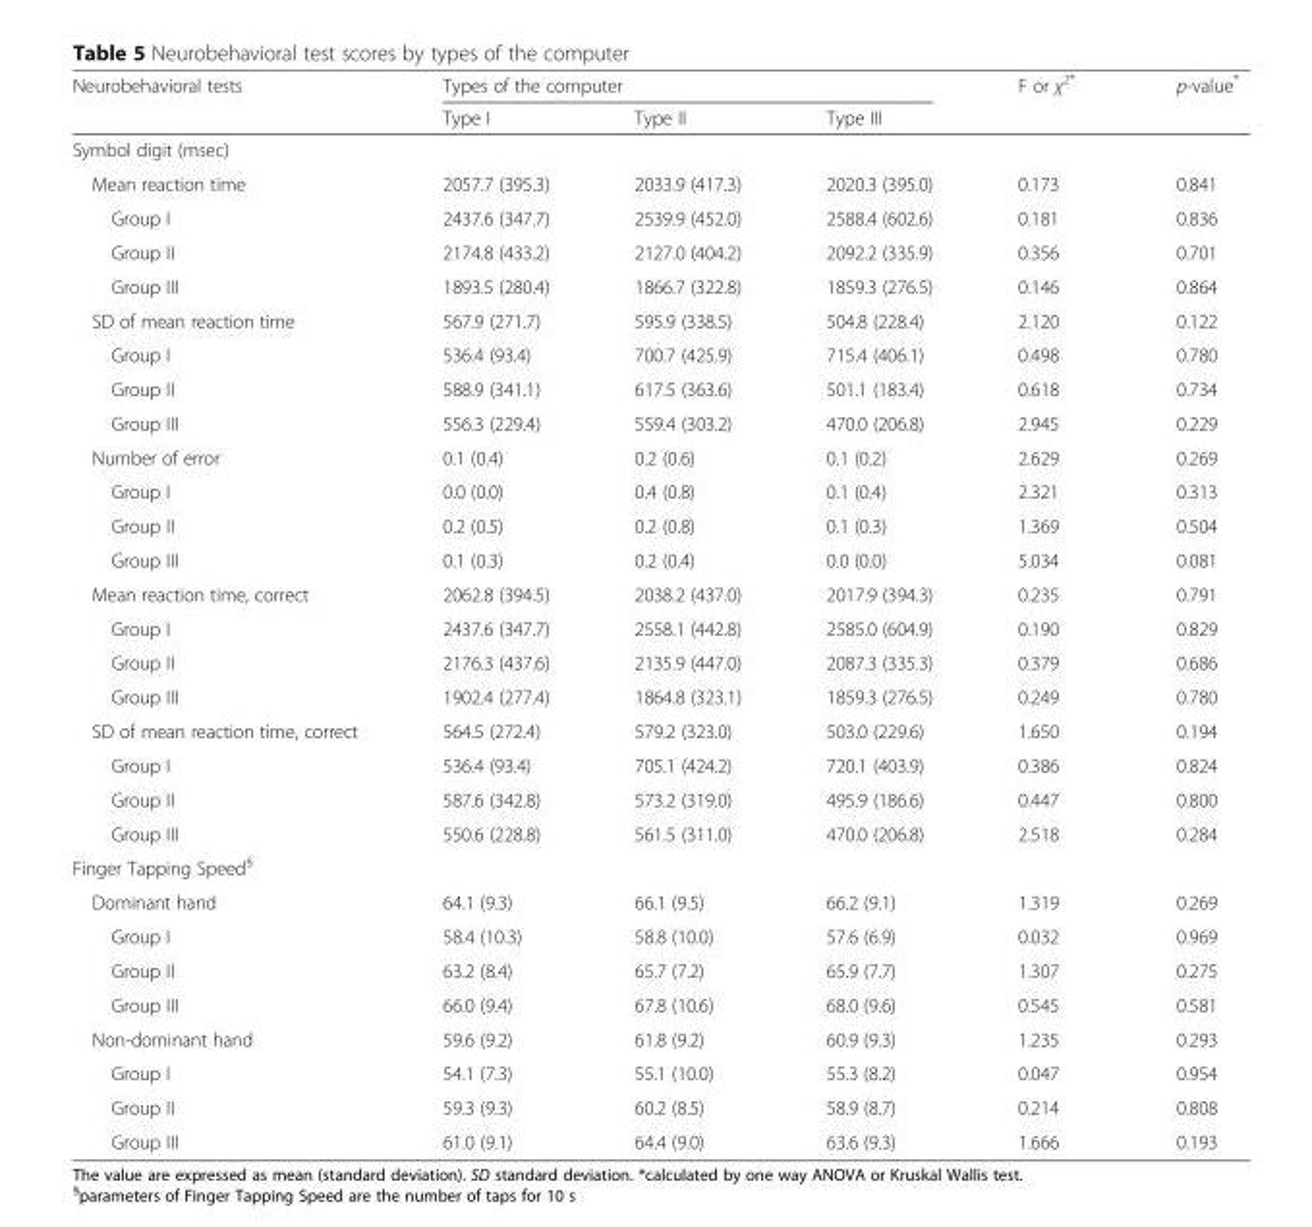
<table><thead><tr><td rowspan="2">Neurobehavioral tests</td><td colspan="3">Types of the computer</td><td rowspan="2">F or χ<sup>2*</sup></td><td rowspan="2">p-value*</td></tr><tr><td>Type I</td><td>Type II</td><td>Type III</td></tr></thead><tbody><tr><td colspan="6">Symbol digit (msec)</td></tr><tr><td>Mean reaction time</td><td>2057.7 (395.3)</td><td>2033.9 (417.3)</td><td>2020.3 (395.0)</td><td>0.173</td><td>0.841</td></tr><tr><td>Group I</td><td>2437.6 (347.7)</td><td>2539.9 (452.0)</td><td>2588.4 (602.6)</td><td>0.181</td><td>0.836</td></tr><tr><td>Group II</td><td>2174.8 (433.2)</td><td>2127.0 (404.2)</td><td>2092.2 (335.9)</td><td>0.356</td><td>0.701</td></tr><tr><td>Group III</td><td>1893.5 (280.4)</td><td>1866.7 (322.8)</td><td>1859.3 (276.5)</td><td>0.146</td><td>0.864</td></tr><tr><td>SD of mean reaction time</td><td>567.9 (271.7)</td><td>595.9 (338.5)</td><td>504.8 (228.4)</td><td>2.120</td><td>0.122</td></tr><tr><td>Group I</td><td>536.4 (93.4)</td><td>700.7 (425.9)</td><td>715.4 (406.1)</td><td>0.498</td><td>0.780</td></tr><tr><td>Group II</td><td>588.9 (341.1)</td><td>617.5 (363.6)</td><td>501.1 (183.4)</td><td>0.618</td><td>0.734</td></tr><tr><td>Group III</td><td>556.3 (229.4)</td><td>559.4 (303.2)</td><td>470.0 (206.8)</td><td>2.945</td><td>0.229</td></tr><tr><td>Number of error</td><td>0.1 (0.4)</td><td>0.2 (0.6)</td><td>0.1 (0.2)</td><td>2.629</td><td>0.269</td></tr><tr><td>Group I</td><td>0.0 (0.0)</td><td>0.4 (0.8)</td><td>0.1 (0.4)</td><td>2.321</td><td>0.313</td></tr><tr><td>Group II</td><td>0.2 (0.5)</td><td>0.2 (0.8)</td><td>0.1 (0.3)</td><td>1.369</td><td>0.504</td></tr><tr><td>Group III</td><td>0.1 (0.3)</td><td>0.2 (0.4)</td><td>0.0 (0.0)</td><td>5.034</td><td>0.081</td></tr><tr><td>Mean reaction time, correct</td><td>2062.8 (394.5)</td><td>2038.2 (437.0)</td><td>2017.9 (394.3)</td><td>0.235</td><td>0.791</td></tr><tr><td>Group I</td><td>2437.6 (347.7)</td><td>2558.1 (442.8)</td><td>2585.0 (604.9)</td><td>0.190</td><td>0.829</td></tr><tr><td>Group II</td><td>2176.3 (437.6)</td><td>2135.9 (447.0)</td><td>2087.3 (335.3)</td><td>0.379</td><td>0.686</td></tr><tr><td>Group III</td><td>1902.4 (277.4)</td><td>1864.8 (323.1)</td><td>1859.3 (276.5)</td><td>0.249</td><td>0.780</td></tr><tr><td>SD of mean reaction time, correct</td><td>564.5 (272.4)</td><td>579.2 (323.0)</td><td>503.0 (229.6)</td><td>1.650</td><td>0.194</td></tr><tr><td>Group I</td><td>536.4 (93.4)</td><td>705.1 (424.2)</td><td>720.1 (403.9)</td><td>0.386</td><td>0.824</td></tr><tr><td>Group II</td><td>587.6 (342.8)</td><td>573.2 (319.0)</td><td>495.9 (186.6)</td><td>0.447</td><td>0.800</td></tr><tr><td>Group III</td><td>550.6 (228.8)</td><td>561.5 (311.0)</td><td>470.0 (206.8)</td><td>2.518</td><td>0.284</td></tr><tr><td colspan="6">Finger Tapping Speed<sup>§</sup></td></tr><tr><td>Dominant hand</td><td>64.1 (9.3)</td><td>66.1 (9.5)</td><td>66.2 (9.1)</td><td>1.319</td><td>0.269</td></tr><tr><td>Group I</td><td>58.4 (10.3)</td><td>58.8 (10.0)</td><td>57.6 (6.9)</td><td>0.032</td><td>0.969</td></tr><tr><td>Group II</td><td>63.2 (8.4)</td><td>65.7 (7.2)</td><td>65.9 (7.7)</td><td>1.307</td><td>0.275</td></tr><tr><td>Group III</td><td>66.0 (9.4)</td><td>67.8 (10.6)</td><td>68.0 (9.6)</td><td>0.545</td><td>0.581</td></tr><tr><td>Non-dominant hand</td><td>59.6 (9.2)</td><td>61.8 (9.2)</td><td>60.9 (9.3)</td><td>1.235</td><td>0.293</td></tr><tr><td>Group I</td><td>54.1 (7.3)</td><td>55.1 (10.0)</td><td>55.3 (8.2)</td><td>0.047</td><td>0.954</td></tr><tr><td>Group II</td><td>59.3 (9.3)</td><td>60.2 (8.5)</td><td>58.9 (8.7)</td><td>0.214</td><td>0.808</td></tr><tr><td>Group III</td><td>61.0 (9.1)</td><td>64.4 (9.0)</td><td>63.6 (9.3)</td><td>1.666</td><td>0.193</td></tr></tbody></table>